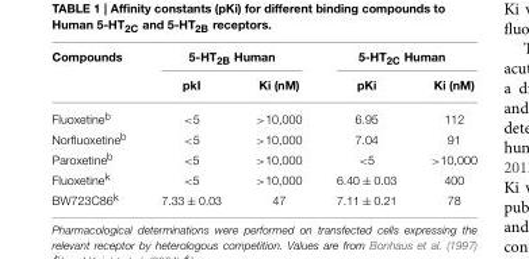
<table><thead><tr><td rowspan="2">Compounds</td><td colspan="2">5-HT<sub>2B</sub> Human</td><td colspan="2">5-HT<sub>2C</sub> Human</td></tr><tr><td>pkI</td><td>Ki (nM)</td><td>pKi</td><td>Ki (nM)</td></tr></thead><tbody><tr><td>Fluoxetine<sup>b</sup></td><td>&lt;5</td><td>&gt;10,000</td><td>6.95</td><td>112</td></tr><tr><td>Norfluoxetine<sup>b</sup></td><td>&lt;5</td><td>&gt;10,000</td><td>7.04</td><td>91</td></tr><tr><td>Paroxetine<sup>b</sup></td><td>&lt;5</td><td>&gt;10,000</td><td>&lt;5</td><td>&gt;10,000</td></tr><tr><td>Fluoxetine<sup>k</sup></td><td>&lt;5</td><td>&gt;10,000</td><td>6.40 ± 0.03</td><td>400</td></tr><tr><td>BW723C86<sup>k</sup></td><td>7.33 ± 0.03</td><td>47</td><td>7.11 ± 0.21</td><td>78</td></tr></tbody></table>